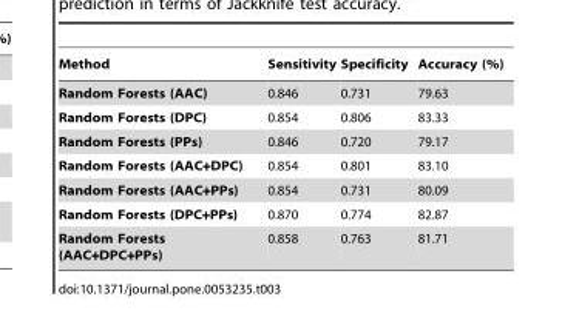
<table><thead><tr><td>Method</td><td>Sensitivity</td><td>Specificity</td><td>Accuracy (%)</td></tr></thead><tbody><tr><td>Random Forests (AAC)</td><td>0.846</td><td>0.731</td><td>79.63</td></tr><tr><td>Random Forests (DPC)</td><td>0.854</td><td>0.806</td><td>83.33</td></tr><tr><td>Random Forests (PPs)</td><td>0.846</td><td>0.720</td><td>79.17</td></tr><tr><td>Random Forests (AAC+DPC)</td><td>0.854</td><td>0.801</td><td>83.10</td></tr><tr><td>Random Forests (AAC+PPs)</td><td>0.854</td><td>0.731</td><td>80.09</td></tr><tr><td>Random Forests (DPC+PPs)</td><td>0.870</td><td>0.774</td><td>82.87</td></tr><tr><td>Random Forests (AAC+DPC+PPs)</td><td>0.858</td><td>0.763</td><td>81.71</td></tr></tbody></table>